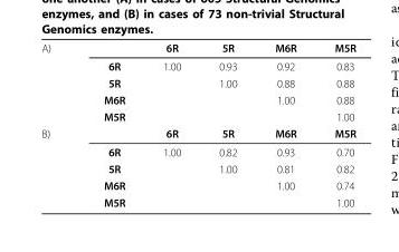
<table><tbody><tr><td rowspan="5">A)</td><td></td><td>6R</td><td>5R</td><td>M6R</td><td>M5R</td></tr><tr><td>6R</td><td>1.00</td><td>0.93</td><td>0.92</td><td>0.83</td></tr><tr><td>5R</td><td></td><td>1.00</td><td>0.88</td><td>0.88</td></tr><tr><td>M6R</td><td></td><td></td><td>1.00</td><td>0.88</td></tr><tr><td>M5R</td><td></td><td></td><td></td><td>1.00</td></tr><tr><td rowspan="5">B)</td><td></td><td>6R</td><td>5R</td><td>M6R</td><td>M5R</td></tr><tr><td>6R</td><td>1.00</td><td>0.82</td><td>0.93</td><td>0.70</td></tr><tr><td>5R</td><td></td><td>1.00</td><td>0.81</td><td>0.82</td></tr><tr><td>M6R</td><td></td><td></td><td>1.00</td><td>0.74</td></tr><tr><td>M5R</td><td></td><td></td><td></td><td>1.00</td></tr></tbody></table>